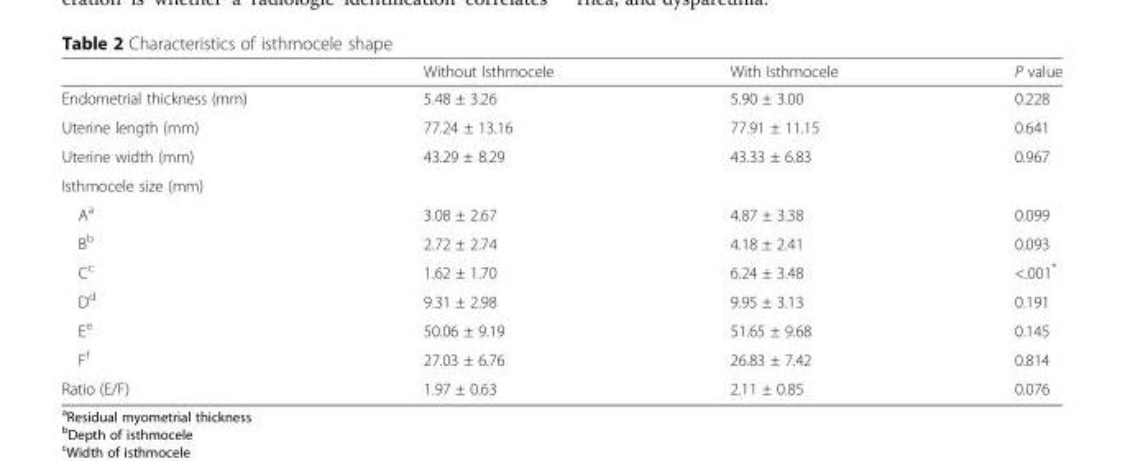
<table><thead><tr><td></td><td>Without Isthmocele</td><td>With Isthmocele</td><td>P value</td></tr></thead><tbody><tr><td>Endometrial thickness (mm)</td><td>5.48 ± 3.26</td><td>5.90 ± 3.00</td><td>0.228</td></tr><tr><td>Uterine length (mm)</td><td>77.24 ± 13.16</td><td>77.91 ± 11.15</td><td>0.641</td></tr><tr><td>Uterine width (mm)</td><td>43.29 ± 8.29</td><td>43.33 ± 6.83</td><td>0.967</td></tr><tr><td colspan="4">Isthmocele size (mm)</td></tr><tr><td>A<sup>a</sup></td><td>3.08 ± 2.67</td><td>4.87 ± 3.38</td><td>0.099</td></tr><tr><td>B<sup>b</sup></td><td>2.72 ± 2.74</td><td>4.18 ± 2.41</td><td>0.093</td></tr><tr><td>C<sup>c</sup></td><td>1.62 ± 1.70</td><td>6.24 ± 3.48</td><td>&lt;.001*</td></tr><tr><td>D<sup>d</sup></td><td>9.31 ± 2.98</td><td>9.95 ± 3.13</td><td>0.191</td></tr><tr><td>E<sup>e</sup></td><td>50.06 ± 9.19</td><td>51.65 ± 9.68</td><td>0.145</td></tr><tr><td>F<sup>f</sup></td><td>27.03 ± 6.76</td><td>26.83 ± 7.42</td><td>0.814</td></tr><tr><td>Ratio (E/F)</td><td>1.97 ± 0.63</td><td>2.11 ± 0.85</td><td>0.076</td></tr></tbody></table>